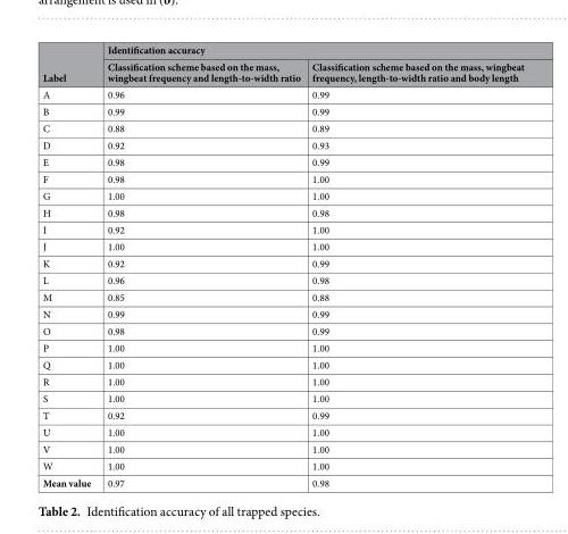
<table><thead><tr><td rowspan="2">Label</td><td colspan="2">Identification accuracy</td></tr><tr><td>Classification scheme based on the mass, wingbeat frequency and length-to-width ratio</td><td>Classification scheme based on the mass, wingbeat frequency, length-to-width ratio and body length</td></tr></thead><tbody><tr><td>A</td><td>0.96</td><td>0.99</td></tr><tr><td>B</td><td>0.99</td><td>0.99</td></tr><tr><td>C</td><td>0.88</td><td>0.89</td></tr><tr><td>D</td><td>0.92</td><td>0.93</td></tr><tr><td>E</td><td>0.98</td><td>0.99</td></tr><tr><td>F</td><td>0.98</td><td>1.00</td></tr><tr><td>G</td><td>1.00</td><td>1.00</td></tr><tr><td>H</td><td>0.98</td><td>0.98</td></tr><tr><td>I</td><td>0.92</td><td>1.00</td></tr><tr><td>J</td><td>1.00</td><td>1.00</td></tr><tr><td>K</td><td>0.92</td><td>0.99</td></tr><tr><td>L</td><td>0.96</td><td>0.98</td></tr><tr><td>M</td><td>0.85</td><td>0.88</td></tr><tr><td>N</td><td>0.99</td><td>0.99</td></tr><tr><td>O</td><td>0.98</td><td>0.99</td></tr><tr><td>P</td><td>1.00</td><td>1.00</td></tr><tr><td>Q</td><td>1.00</td><td>1.00</td></tr><tr><td>R</td><td>1.00</td><td>1.00</td></tr><tr><td>S</td><td>1.00</td><td>1.00</td></tr><tr><td>T</td><td>0.92</td><td>0.99</td></tr><tr><td>U</td><td>1.00</td><td>1.00</td></tr><tr><td>V</td><td>1.00</td><td>1.00</td></tr><tr><td>W</td><td>1.00</td><td>1.00</td></tr><tr><td>Mean value</td><td>0.97</td><td>0.98</td></tr></tbody></table>